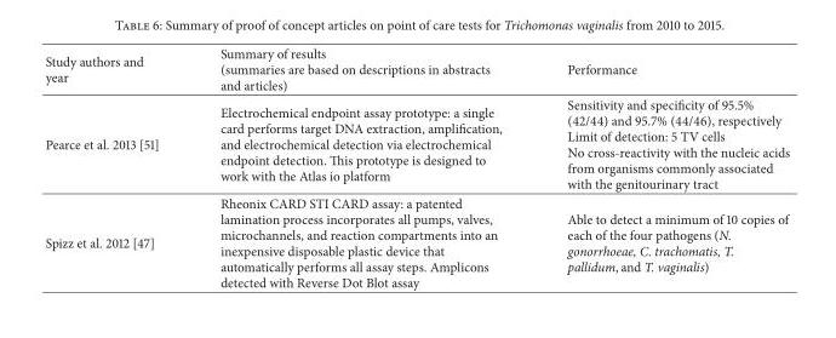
<table><thead><tr><td>Study authors and year</td><td>Summary of results (summaries are based on descriptions in abstracts and articles)</td><td>Performance</td></tr></thead><tbody><tr><td>Pearce et al. 2013 [51]</td><td>Electrochemical endpoint assay prototype: a single card performs target DNA extraction, amplification, and electrochemical detection via electrochemical endpoint detection. This prototype is designed to work with the Atlas io platform</td><td>Sensitivity and specificity of 95.5% (42/44) and 95.7% (44/46), respectively Limit of detection: 5 TV cells No cross-reactivity with the nucleic acids from organisms commonly associated with the genitourinary tract</td></tr><tr><td>Spizz et al. 2012 [47]</td><td>Rheonix CARD STI CARD assay: a patented lamination process incorporates all pumps, valves, microchannels, and reaction compartments into an inexpensive disposable plastic device that automatically performs all assay steps. Amplicons detected with Reverse Dot Blot assay</td><td>Able to detect a minimum of 10 copies of each of the four pathogens (N. gonorrhoeae, C. trachomatis, T. pallidum, and T. vaginalis)</td></tr></tbody></table>